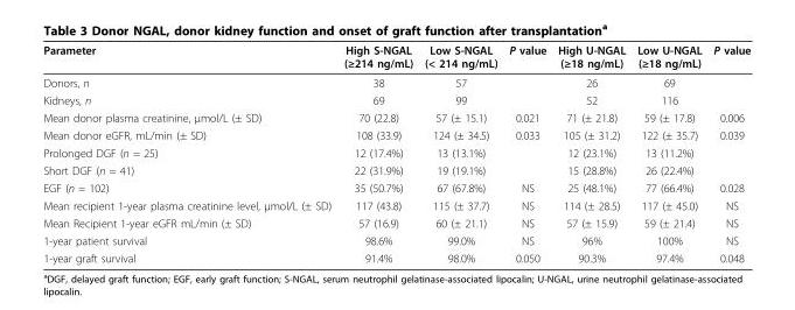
<table><thead><tr><td>Parameter</td><td>High S-NGAL (≥214 ng/mL)</td><td>Low S-NGAL (&lt; 214 ng/mL)</td><td>P value</td><td>High U-NGAL (≥18 ng/mL)</td><td>Low U-NGAL (≥18 ng/mL)</td><td>P value</td></tr></thead><tbody><tr><td>Donors, n</td><td>38</td><td>57</td><td></td><td>26</td><td>69</td><td></td></tr><tr><td>Kidneys, n</td><td>69</td><td>99</td><td></td><td>52</td><td>116</td><td></td></tr><tr><td>Mean donor plasma creatinine, μmol/L (± SD)</td><td>70 (22.8)</td><td>57 (± 15.1)</td><td>0.021</td><td>71 (± 21.8)</td><td>59 (± 17.8)</td><td>0.006</td></tr><tr><td>Mean donor eGFR, mL/min (± SD)</td><td>108 (33.9)</td><td>124 (± 34.5)</td><td>0.033</td><td>105 (± 31.2)</td><td>122 (± 35.7)</td><td>0.039</td></tr><tr><td>Prolonged DGF (n = 25)</td><td>12 (17.4%)</td><td>13 (13.1%)</td><td></td><td>12 (23.1%)</td><td>13 (11.2%)</td><td></td></tr><tr><td>Short DGF (n = 41)</td><td>22 (31.9%)</td><td>19 (19.1%)</td><td></td><td>15 (28.8%)</td><td>26 (22.4%)</td><td></td></tr><tr><td>EGF (n = 102)</td><td>35 (50.7%)</td><td>67 (67.8%)</td><td>NS</td><td>25 (48.1%)</td><td>77 (66.4%)</td><td>0.028</td></tr><tr><td>Mean recipient 1-year plasma creatinine level, μmol/L (± SD)</td><td>117 (43.8)</td><td>115 (± 37.7)</td><td>NS</td><td>114 (± 28.5)</td><td>117 (± 45.0)</td><td>NS</td></tr><tr><td>Mean Recipient 1-year eGFR mL/min (± SD)</td><td>57 (16.9)</td><td>60 (± 21.1)</td><td>NS</td><td>57 (± 15.9)</td><td>59 (± 21.4)</td><td>NS</td></tr><tr><td>1-year patient survival</td><td>98.6%</td><td>99.0%</td><td>NS</td><td>96%</td><td>100%</td><td>NS</td></tr><tr><td>1-year graft survival</td><td>91.4%</td><td>98.0%</td><td>0.050</td><td>90.3%</td><td>97.4%</td><td>0.048</td></tr></tbody></table>